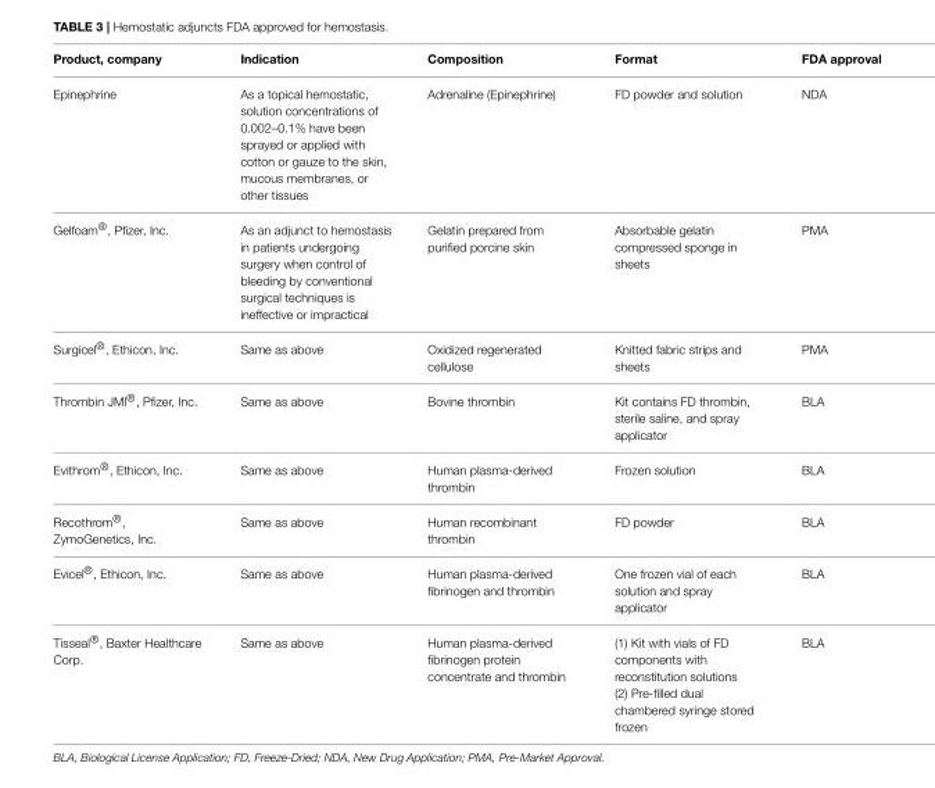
<table><thead><tr><td>Product, company</td><td>Indication</td><td>Composition</td><td>Format</td><td>FDA approval</td></tr></thead><tbody><tr><td>Epinephrine</td><td>As a topical hemostatic, solution concentrations of 0.002–0.1% have been sprayed or applied with cotton or gauze to the skin, mucous membranes, or other tissues</td><td>Adrenaline (Epinephrine)</td><td>FD powder and solution</td><td>NDA</td></tr><tr><td>Gelfoam®, Pfizer, Inc.</td><td>As an adjunct to hemostasis in patients undergoing surgery when control of bleeding by conventional surgical techniques is ineffective or impractical</td><td>Gelatin prepared from purified porcine skin</td><td>Absorbable gelatin compressed sponge in sheets</td><td>PMA</td></tr><tr><td>Surgicel®, Ethicon, Inc.</td><td>Same as above</td><td>Oxidized regenerated cellulose</td><td>Knitted fabric strips and sheets</td><td>PMA</td></tr><tr><td>Thrombin JMI®, Pfizer, Inc.</td><td>Same as above</td><td>Bovine thrombin</td><td>Kit contains FD thrombin, sterile saline, and spray applicator</td><td>BLA</td></tr><tr><td>Evithrom®, Ethicon, Inc.</td><td>Same as above</td><td>Human plasma-derived thrombin</td><td>Frozen solution</td><td>BLA</td></tr><tr><td>Recothrom®, ZymoGenetics, Inc.</td><td>Same as above</td><td>Human recombinant thrombin</td><td>FD powder</td><td>BLA</td></tr><tr><td>Evicel®, Ethicon, Inc.</td><td>Same as above</td><td>Human plasma-derived fibrinogen and thrombin</td><td>One frozen vial of each solution and spray applicator</td><td>BLA</td></tr><tr><td>Tisseal®, Baxter Healthcare Corp.</td><td>Same as above</td><td>Human plasma-derived fibrinogen protein concentrate and thrombin</td><td>(1) Kit with vials of FD components with reconstitution solutions (2) Pre-filled dual chambered syringe stored frozen</td><td>BLA</td></tr></tbody></table>